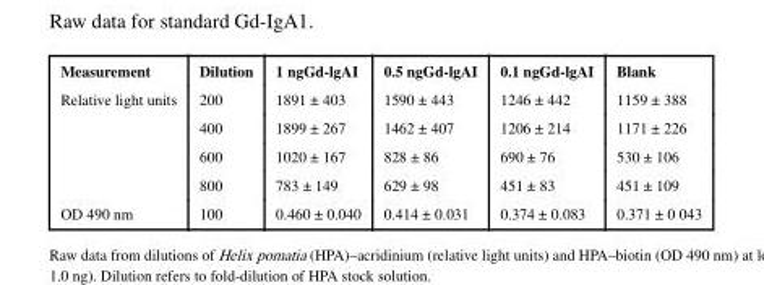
<table><thead><tr><td>Measurement</td><td>Dilution</td><td>1 ngGd-lgAI</td><td>0.5 ngGd-lgAI</td><td>0.1 ngGd-lgAI</td><td>Blank</td></tr></thead><tbody><tr><td rowspan="4">Relative light units</td><td>200</td><td>1891 ± 403</td><td>1590 ± 443</td><td>1246 ± 442</td><td>1159 ± 388</td></tr><tr><td>400</td><td>1899 ± 267</td><td>1462 ± 407</td><td>1206 ± 214</td><td>1171 ± 226</td></tr><tr><td>600</td><td>1020 ± 167</td><td>828 ± 86</td><td>690 ± 76</td><td>530 ± 106</td></tr><tr><td>800</td><td>783 ± 149</td><td>629 ± 98</td><td>451 ± 83</td><td>451 ± 109</td></tr><tr><td>OD 490 nm</td><td>100</td><td>0.460 ± 0.040</td><td>0.414 ± 0.031</td><td>0.374 ± 0.083</td><td>0.371 ± 0 043</td></tr></tbody></table>